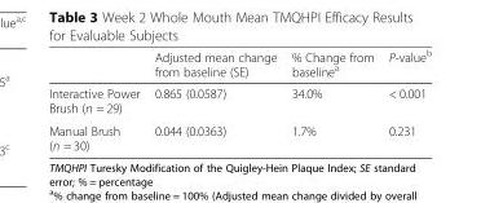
<table><thead><tr><td></td><td>Adjusted mean change from baseline (SE)</td><td>% Change from baseline<sup>a</sup></td><td>P-value<sup>b</sup></td></tr></thead><tbody><tr><td>Interactive Power Brush (n = 29)</td><td>0.865 (0.0587)</td><td>34.0%</td><td>&lt; 0.001</td></tr><tr><td>Manual Brush (n = 30)</td><td>0.044 (0.0363)</td><td>1.7%</td><td>0.231</td></tr></tbody></table>